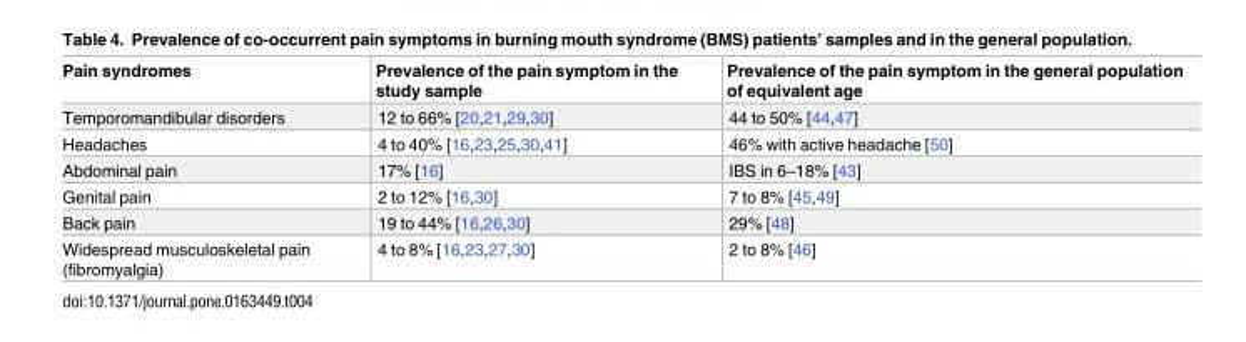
<table><thead><tr><td>Pain syndromes</td><td>Prevalence of the pain symptom in the study sample</td><td>Prevalence of the pain symptom in the general population of equivalent age</td></tr></thead><tbody><tr><td>Temporomandibular disorders</td><td>12 to 66% [20,21,29,30]</td><td>44 to 50% [44,47]</td></tr><tr><td>Headaches</td><td>4 to 40% [16,23,25,30,41]</td><td>46% with active headache [50]</td></tr><tr><td>Abdominal pain</td><td>17% [16]</td><td>IBS in 6–18% [43]</td></tr><tr><td>Genital pain</td><td>2 to 12% [16,30]</td><td>7 to 8% [45,49]</td></tr><tr><td>Back pain</td><td>19 to 44% [16,26,30]</td><td>29% [48]</td></tr><tr><td>Widespread musculoskeletal pain (fibromyalgia)</td><td>4 to 8% [16,23,27,30]</td><td>2 to 8% [46]</td></tr></tbody></table>